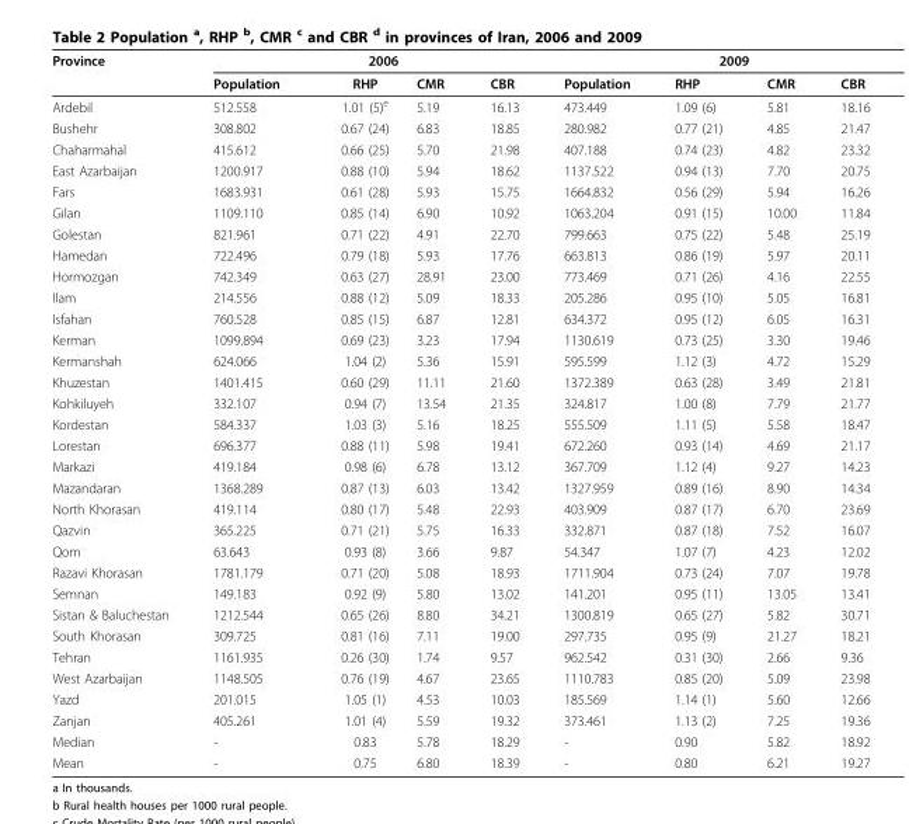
<table><thead><tr><td rowspan="2">Province</td><td colspan="4">2006</td><td colspan="4">2009</td></tr><tr><td>Population</td><td>RHP</td><td>CMR</td><td>CBR</td><td>Population</td><td>RHP</td><td>CMR</td><td>CBR</td></tr></thead><tbody><tr><td>Ardebil</td><td>512.558</td><td>1.01 (5)<sup>e</sup></td><td>5.19</td><td>16.13</td><td>473.449</td><td>1.09 (6)</td><td>5.81</td><td>18.16</td></tr><tr><td>Bushehr</td><td>308.802</td><td>0.67 (24)</td><td>6.83</td><td>18.85</td><td>280.982</td><td>0.77 (21)</td><td>4.85</td><td>21.47</td></tr><tr><td>Chaharmahal</td><td>415.612</td><td>0.66 (25)</td><td>5.70</td><td>21.98</td><td>407.188</td><td>0.74 (23)</td><td>4.82</td><td>23.32</td></tr><tr><td>East Azarbaijan</td><td>1200.917</td><td>0.88 (10)</td><td>5.94</td><td>18.62</td><td>1137.522</td><td>0.94 (13)</td><td>7.70</td><td>20.75</td></tr><tr><td>Fars</td><td>1683.931</td><td>0.61 (28)</td><td>5.93</td><td>15.75</td><td>1664.832</td><td>0.56 (29)</td><td>5.94</td><td>16.26</td></tr><tr><td>Gilan</td><td>1109.110</td><td>0.85 (14)</td><td>6.90</td><td>10.92</td><td>1063.204</td><td>0.91 (15)</td><td>10.00</td><td>11.84</td></tr><tr><td>Golestan</td><td>821.961</td><td>0.71 (22)</td><td>4.91</td><td>22.70</td><td>799.663</td><td>0.75 (22)</td><td>5.48</td><td>25.19</td></tr><tr><td>Hamedan</td><td>722.496</td><td>0.79 (18)</td><td>5.93</td><td>17.76</td><td>663.813</td><td>0.86 (19)</td><td>5.97</td><td>20.11</td></tr><tr><td>Hormozgan</td><td>742.349</td><td>0.63 (27)</td><td>28.91</td><td>23.00</td><td>773.469</td><td>0.71 (26)</td><td>4.16</td><td>22.55</td></tr><tr><td>Ilam</td><td>214.556</td><td>0.88 (12)</td><td>5.09</td><td>18.33</td><td>205.286</td><td>0.95 (10)</td><td>5.05</td><td>16.81</td></tr><tr><td>Isfahan</td><td>760.528</td><td>0.85 (15)</td><td>6.87</td><td>12.81</td><td>634.372</td><td>0.95 (12)</td><td>6.05</td><td>16.31</td></tr><tr><td>Kerman</td><td>1099.894</td><td>0.69 (23)</td><td>3.23</td><td>17.94</td><td>1130.619</td><td>0.73 (25)</td><td>3.30</td><td>19.46</td></tr><tr><td>Kermanshah</td><td>624.066</td><td>1.04 (2)</td><td>5.36</td><td>15.91</td><td>595.599</td><td>1.12 (3)</td><td>4.72</td><td>15.29</td></tr><tr><td>Khuzestan</td><td>1401.415</td><td>0.60 (29)</td><td>11.11</td><td>21.60</td><td>1372.389</td><td>0.63 (28)</td><td>3.49</td><td>21.81</td></tr><tr><td>Kohkiluyeh</td><td>332.107</td><td>0.94 (7)</td><td>13.54</td><td>21.35</td><td>324.817</td><td>1.00 (8)</td><td>7.79</td><td>21.77</td></tr><tr><td>Kordestan</td><td>584.337</td><td>1.03 (3)</td><td>5.16</td><td>18.25</td><td>555.509</td><td>1.11 (5)</td><td>5.58</td><td>18.47</td></tr><tr><td>Lorestan</td><td>696.377</td><td>0.88 (11)</td><td>5.98</td><td>19.41</td><td>672.260</td><td>0.93 (14)</td><td>4.69</td><td>21.17</td></tr><tr><td>Markazi</td><td>419.184</td><td>0.98 (6)</td><td>6.78</td><td>13.12</td><td>367.709</td><td>1.12 (4)</td><td>9.27</td><td>14.23</td></tr><tr><td>Mazandaran</td><td>1368.289</td><td>0.87 (13)</td><td>6.03</td><td>13.42</td><td>1327.959</td><td>0.89 (16)</td><td>8.90</td><td>14.34</td></tr><tr><td>North Khorasan</td><td>419.114</td><td>0.80 (17)</td><td>5.48</td><td>22.93</td><td>403.909</td><td>0.87 (17)</td><td>6.70</td><td>23.69</td></tr><tr><td>Qazvin</td><td>365.225</td><td>0.71 (21)</td><td>5.75</td><td>16.33</td><td>332.871</td><td>0.87 (18)</td><td>7.52</td><td>16.07</td></tr><tr><td>Qom</td><td>63.643</td><td>0.93 (8)</td><td>3.66</td><td>9.87</td><td>54.347</td><td>1.07 (7)</td><td>4.23</td><td>12.02</td></tr><tr><td>Razavi Khorasan</td><td>1781.179</td><td>0.71 (20)</td><td>5.08</td><td>18.93</td><td>1711.904</td><td>0.73 (24)</td><td>7.07</td><td>19.78</td></tr><tr><td>Semnan</td><td>149.183</td><td>0.92 (9)</td><td>5.80</td><td>13.02</td><td>141.201</td><td>0.95 (11)</td><td>13.05</td><td>13.41</td></tr><tr><td>Sistan &amp; Baluchestan</td><td>1212.544</td><td>0.65 (26)</td><td>8.80</td><td>34.21</td><td>1300.819</td><td>0.65 (27)</td><td>5.82</td><td>30.71</td></tr><tr><td>South Khorasan</td><td>309.725</td><td>0.81 (16)</td><td>7.11</td><td>19.00</td><td>297.735</td><td>0.95 (9)</td><td>21.27</td><td>18.21</td></tr><tr><td>Tehran</td><td>1161.935</td><td>0.26 (30)</td><td>1.74</td><td>9.57</td><td>962.542</td><td>0.31 (30)</td><td>2.66</td><td>9.36</td></tr><tr><td>West Azarbaijan</td><td>1148.505</td><td>0.76 (19)</td><td>4.67</td><td>23.65</td><td>1110.783</td><td>0.85 (20)</td><td>5.09</td><td>23.98</td></tr><tr><td>Yazd</td><td>201.015</td><td>1.05 (1)</td><td>4.53</td><td>10.03</td><td>185.569</td><td>1.14 (1)</td><td>5.60</td><td>12.66</td></tr><tr><td>Zanjan</td><td>405.261</td><td>1.01 (4)</td><td>5.59</td><td>19.32</td><td>373.461</td><td>1.13 (2)</td><td>7.25</td><td>19.36</td></tr><tr><td>Median</td><td>-</td><td>0.83</td><td>5.78</td><td>18.29</td><td>-</td><td>0.90</td><td>5.82</td><td>18.92</td></tr><tr><td>Mean</td><td>-</td><td>0.75</td><td>6.80</td><td>18.39</td><td>-</td><td>0.80</td><td>6.21</td><td>19.27</td></tr></tbody></table>